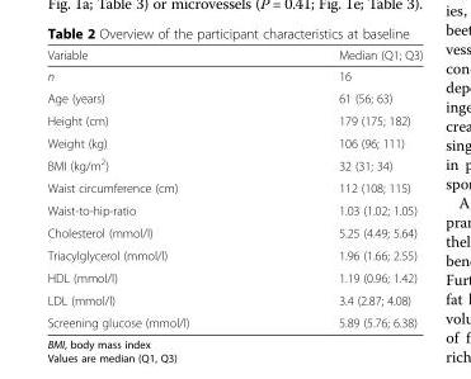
<table><thead><tr><td>Variable</td><td>Median (Q1; Q3)</td></tr></thead><tbody><tr><td>n</td><td>16</td></tr><tr><td>Age (years)</td><td>61 (56; 63)</td></tr><tr><td>Height (cm)</td><td>179 (175; 182)</td></tr><tr><td>Weight (kg)</td><td>106 (96; 111)</td></tr><tr><td>BMI (kg/m<sup>2</sup>)</td><td>32 (31; 34)</td></tr><tr><td>Waist circumference (cm)</td><td>112 (108; 115)</td></tr><tr><td>Waist-to-hip-ratio</td><td>1.03 (1.02; 1.05)</td></tr><tr><td>Cholesterol (mmol/l)</td><td>5.25 (4.49; 5.64)</td></tr><tr><td>Triacylglycerol (mmol/l)</td><td>1.96 (1.66; 2.55)</td></tr><tr><td>HDL (mmol/l)</td><td>1.19 (0.96; 1.42)</td></tr><tr><td>LDL (mmol/l)</td><td>3.4 (2.87; 4.08)</td></tr><tr><td>Screening glucose (mmol/l)</td><td>5.89 (5.76; 6.38)</td></tr></tbody></table>